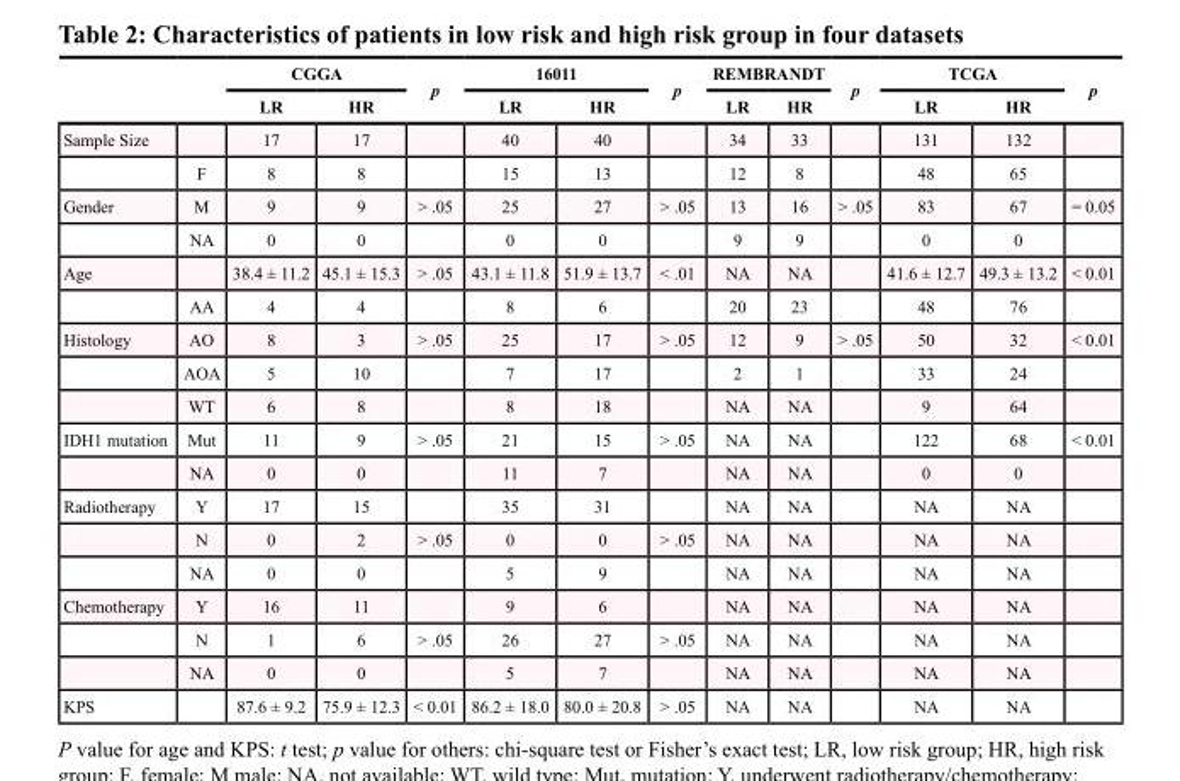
<table><thead><tr><td rowspan="2"></td><td rowspan="2"></td><td colspan="2">CGGA</td><td rowspan="2">p</td><td colspan="2">16011</td><td rowspan="2">p</td><td colspan="2">REMBRANDT</td><td rowspan="2">p</td><td colspan="2">TCGA</td><td rowspan="2">p</td></tr><tr><td>LR</td><td>HR</td><td>LR</td><td>HR</td><td>LR</td><td>HR</td><td>LR</td><td>HR</td></tr></thead><tbody><tr><td rowspan="2">Sample Size</td><td></td><td>17</td><td>17</td><td></td><td>40</td><td>40</td><td></td><td>34</td><td>33</td><td></td><td>131</td><td>132</td><td></td></tr><tr><td>F</td><td>8</td><td>8</td><td></td><td>15</td><td>13</td><td></td><td>12</td><td>8</td><td></td><td>48</td><td>65</td><td></td></tr><tr><td rowspan="2">Gender</td><td>M</td><td>9</td><td>9</td><td>&gt; .05</td><td>25</td><td>27</td><td>&gt; .05</td><td>13</td><td>16</td><td>&gt; .05</td><td>83</td><td>67</td><td>= 0.05</td></tr><tr><td>NA</td><td>0</td><td>0</td><td></td><td>0</td><td>0</td><td></td><td>9</td><td>9</td><td></td><td>0</td><td>0</td><td></td></tr><tr><td rowspan="2">Age</td><td></td><td>38.4 ± 11.2</td><td>45.1 ± 15.3</td><td>&gt; .05</td><td>43.1 ± 11.8</td><td>51.9 ± 13.7</td><td>&lt; .01</td><td>NA</td><td>NA</td><td></td><td>41.6 ± 12.7</td><td>49.3 ± 13.2</td><td>&lt; 0.01</td></tr><tr><td>AA</td><td>4</td><td>4</td><td></td><td>8</td><td>6</td><td></td><td>20</td><td>23</td><td></td><td>48</td><td>76</td><td></td></tr><tr><td rowspan="3">Histology</td><td>AO</td><td>8</td><td>3</td><td>&gt; .05</td><td>25</td><td>17</td><td>&gt; .05</td><td>12</td><td>9</td><td>&gt; .05</td><td>50</td><td>32</td><td>&lt; 0.01</td></tr><tr><td>AOA</td><td>5</td><td>10</td><td></td><td>7</td><td>17</td><td></td><td>2</td><td>1</td><td></td><td>33</td><td>24</td><td></td></tr><tr><td>WT</td><td>6</td><td>8</td><td></td><td>8</td><td>18</td><td></td><td>NA</td><td>NA</td><td></td><td>9</td><td>64</td><td></td></tr><tr><td rowspan="2">IDH1 mutation</td><td>Mut</td><td>11</td><td>9</td><td>&gt; .05</td><td>21</td><td>15</td><td>&gt; .05</td><td>NA</td><td>NA</td><td></td><td>122</td><td>68</td><td>&lt; 0.01</td></tr><tr><td>NA</td><td>0</td><td>0</td><td></td><td>11</td><td>7</td><td></td><td>NA</td><td>NA</td><td></td><td>0</td><td>0</td><td></td></tr><tr><td rowspan="3">Radiotherapy</td><td>Y</td><td>17</td><td>15</td><td></td><td>35</td><td>31</td><td></td><td>NA</td><td>NA</td><td></td><td>NA</td><td>NA</td><td></td></tr><tr><td>N</td><td>0</td><td>2</td><td>&gt; .05</td><td>0</td><td>0</td><td>&gt; .05</td><td>NA</td><td>NA</td><td></td><td>NA</td><td>NA</td><td></td></tr><tr><td>NA</td><td>0</td><td>0</td><td></td><td>5</td><td>9</td><td></td><td>NA</td><td>NA</td><td></td><td>NA</td><td>NA</td><td></td></tr><tr><td rowspan="3">Chemotherapy</td><td>Y</td><td>16</td><td>11</td><td></td><td>9</td><td>6</td><td></td><td>NA</td><td>NA</td><td></td><td>NA</td><td>NA</td><td></td></tr><tr><td>N</td><td>1</td><td>6</td><td>&gt; .05</td><td>26</td><td>27</td><td>&gt; .05</td><td>NA</td><td>NA</td><td></td><td>NA</td><td>NA</td><td></td></tr><tr><td>NA</td><td>0</td><td>0</td><td></td><td>5</td><td>7</td><td></td><td>NA</td><td>NA</td><td></td><td>NA</td><td>NA</td><td></td></tr><tr><td>KPS</td><td></td><td>87.6 ± 9.2</td><td>75.9 ± 12.3</td><td>&lt; 0.01</td><td>86.2 ± 18.0</td><td>80.0 ± 20.8</td><td>&gt; .05</td><td>NA</td><td>NA</td><td></td><td>NA</td><td>NA</td><td></td></tr></tbody></table>